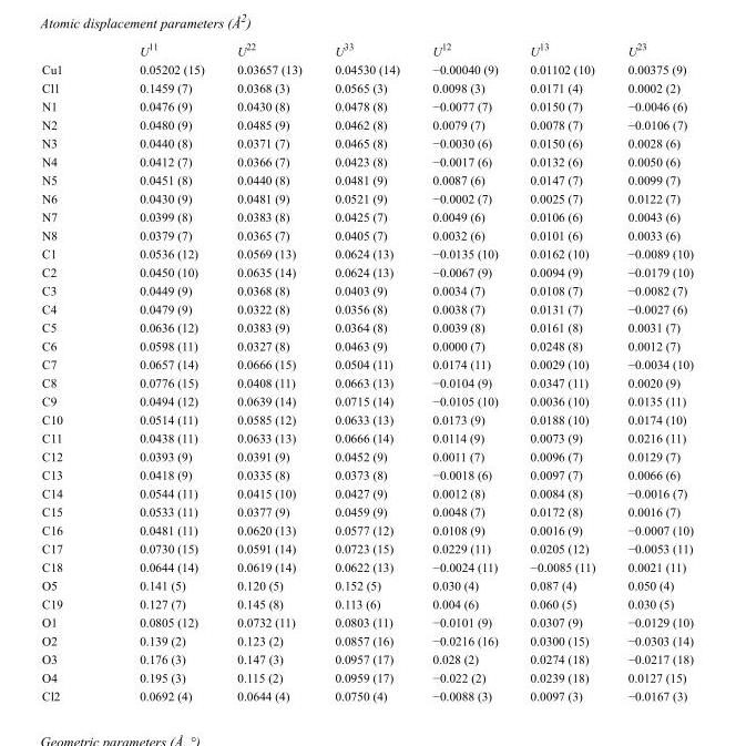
<table><thead><tr><td></td><td>U<sup>11</sup></td><td>U<sup>22</sup></td><td>U<sup>33</sup></td><td>U<sup>12</sup></td><td>U<sup>13</sup></td><td>U<sup>23</sup></td></tr></thead><tbody><tr><td>Cu1</td><td>0.05202 (15)</td><td>0.03657 (13)</td><td>0.04530 (14)</td><td>−0.00040 (9)</td><td>0.01102 (10)</td><td>0.00375 (9)</td></tr><tr><td>Cl1</td><td>0.1459 (7)</td><td>0.0368 (3)</td><td>0.0565 (3)</td><td>0.0098 (3)</td><td>0.0171 (4)</td><td>0.0002 (2)</td></tr><tr><td>N1</td><td>0.0476 (9)</td><td>0.0430 (8)</td><td>0.0478 (8)</td><td>−0.0077 (7)</td><td>0.0150 (7)</td><td>−0.0046 (6)</td></tr><tr><td>N2</td><td>0.0480 (9)</td><td>0.0485 (9)</td><td>0.0462 (8)</td><td>0.0079 (7)</td><td>0.0078 (7)</td><td>−0.0106 (7)</td></tr><tr><td>N3</td><td>0.0440 (8)</td><td>0.0371 (7)</td><td>0.0465 (8)</td><td>−0.0030 (6)</td><td>0.0150 (6)</td><td>0.0028 (6)</td></tr><tr><td>N4</td><td>0.0412 (7)</td><td>0.0366 (7)</td><td>0.0423 (8)</td><td>−0.0017 (6)</td><td>0.0132 (6)</td><td>0.0050 (6)</td></tr><tr><td>N5</td><td>0.0451 (8)</td><td>0.0440 (8)</td><td>0.0481 (9)</td><td>0.0087 (6)</td><td>0.0147 (7)</td><td>0.0099 (7)</td></tr><tr><td>N6</td><td>0.0430 (9)</td><td>0.0481 (9)</td><td>0.0521 (9)</td><td>−0.0002 (7)</td><td>0.0025 (7)</td><td>0.0122 (7)</td></tr><tr><td>N7</td><td>0.0399 (8)</td><td>0.0383 (8)</td><td>0.0425 (7)</td><td>0.0049 (6)</td><td>0.0106 (6)</td><td>0.0043 (6)</td></tr><tr><td>N8</td><td>0.0379 (7)</td><td>0.0365 (7)</td><td>0.0405 (7)</td><td>0.0032 (6)</td><td>0.0101 (6)</td><td>0.0033 (6)</td></tr><tr><td>C1</td><td>0.0536 (12)</td><td>0.0569 (13)</td><td>0.0624 (13)</td><td>−0.0135 (10)</td><td>0.0162 (10)</td><td>−0.0089 (10)</td></tr><tr><td>C2</td><td>0.0450 (10)</td><td>0.0635 (14)</td><td>0.0624 (13)</td><td>−0.0067 (9)</td><td>0.0094 (9)</td><td>−0.0179 (10)</td></tr><tr><td>C3</td><td>0.0449 (9)</td><td>0.0368 (8)</td><td>0.0403 (9)</td><td>0.0034 (7)</td><td>0.0108 (7)</td><td>−0.0082 (7)</td></tr><tr><td>C4</td><td>0.0479 (9)</td><td>0.0322 (8)</td><td>0.0356 (8)</td><td>0.0038 (7)</td><td>0.0131 (7)</td><td>−0.0027 (6)</td></tr><tr><td>C5</td><td>0.0636 (12)</td><td>0.0383 (9)</td><td>0.0364 (8)</td><td>0.0039 (8)</td><td>0.0161 (8)</td><td>0.0031 (7)</td></tr><tr><td>C6</td><td>0.0598 (11)</td><td>0.0327 (8)</td><td>0.0463 (9)</td><td>0.0000 (7)</td><td>0.0248 (8)</td><td>0.0012 (7)</td></tr><tr><td>C7</td><td>0.0657 (14)</td><td>0.0666 (15)</td><td>0.0504 (11)</td><td>0.0174 (11)</td><td>0.0029 (10)</td><td>−0.0034 (10)</td></tr><tr><td>C8</td><td>0.0776 (15)</td><td>0.0408 (11)</td><td>0.0663 (13)</td><td>−0.0104 (9)</td><td>0.0347 (11)</td><td>0.0020 (9)</td></tr><tr><td>C9</td><td>0.0494 (12)</td><td>0.0639 (14)</td><td>0.0715 (14)</td><td>−0.0105 (10)</td><td>0.0036 (10)</td><td>0.0135 (11)</td></tr><tr><td>C10</td><td>0.0514 (11)</td><td>0.0585 (12)</td><td>0.0633 (13)</td><td>0.0173 (9)</td><td>0.0188 (10)</td><td>0.0174 (10)</td></tr><tr><td>C11</td><td>0.0438 (11)</td><td>0.0633 (13)</td><td>0.0666 (14)</td><td>0.0114 (9)</td><td>0.0073 (9)</td><td>0.0216 (11)</td></tr><tr><td>C12</td><td>0.0393 (9)</td><td>0.0391 (9)</td><td>0.0452 (9)</td><td>0.0011 (7)</td><td>0.0096 (7)</td><td>0.0129 (7)</td></tr><tr><td>C13</td><td>0.0418 (9)</td><td>0.0335 (8)</td><td>0.0373 (8)</td><td>−0.0018 (6)</td><td>0.0097 (7)</td><td>0.0066 (6)</td></tr><tr><td>C14</td><td>0.0544 (11)</td><td>0.0415 (10)</td><td>0.0427 (9)</td><td>0.0012 (8)</td><td>0.0084 (8)</td><td>−0.0016 (7)</td></tr><tr><td>C15</td><td>0.0533 (11)</td><td>0.0377 (9)</td><td>0.0459 (9)</td><td>0.0048 (7)</td><td>0.0172 (8)</td><td>0.0016 (7)</td></tr><tr><td>C16</td><td>0.0481 (11)</td><td>0.0620 (13)</td><td>0.0577 (12)</td><td>0.0108 (9)</td><td>0.0016 (9)</td><td>−0.0007 (10)</td></tr><tr><td>C17</td><td>0.0730 (15)</td><td>0.0591 (14)</td><td>0.0723 (15)</td><td>0.0229 (11)</td><td>0.0205 (12)</td><td>−0.0053 (11)</td></tr><tr><td>C18</td><td>0.0644 (14)</td><td>0.0619 (14)</td><td>0.0622 (13)</td><td>−0.0024 (11)</td><td>−0.0085 (11)</td><td>0.0021 (11)</td></tr><tr><td>O5</td><td>0.141 (5)</td><td>0.120 (5)</td><td>0.152 (5)</td><td>0.030 (4)</td><td>0.087 (4)</td><td>0.050 (4)</td></tr><tr><td>C19</td><td>0.127 (7)</td><td>0.145 (8)</td><td>0.113 (6)</td><td>0.004 (6)</td><td>0.060 (5)</td><td>0.030 (5)</td></tr><tr><td>O1</td><td>0.0805 (12)</td><td>0.0732 (11)</td><td>0.0803 (11)</td><td>−0.0101 (9)</td><td>0.0307 (9)</td><td>−0.0129 (10)</td></tr><tr><td>O2</td><td>0.139 (2)</td><td>0.123 (2)</td><td>0.0857 (16)</td><td>−0.0216 (16)</td><td>0.0300 (15)</td><td>−0.0303 (14)</td></tr><tr><td>O3</td><td>0.176 (3)</td><td>0.147 (3)</td><td>0.0957 (17)</td><td>0.028 (2)</td><td>0.0274 (18)</td><td>−0.0217 (18)</td></tr><tr><td>O4</td><td>0.195 (3)</td><td>0.115 (2)</td><td>0.0959 (17)</td><td>−0.022 (2)</td><td>0.0239 (18)</td><td>0.0127 (15)</td></tr><tr><td>Cl2</td><td>0.0692 (4)</td><td>0.0644 (4)</td><td>0.0750 (4)</td><td>−0.0088 (3)</td><td>0.0097 (3)</td><td>−0.0167 (3)</td></tr></tbody></table>